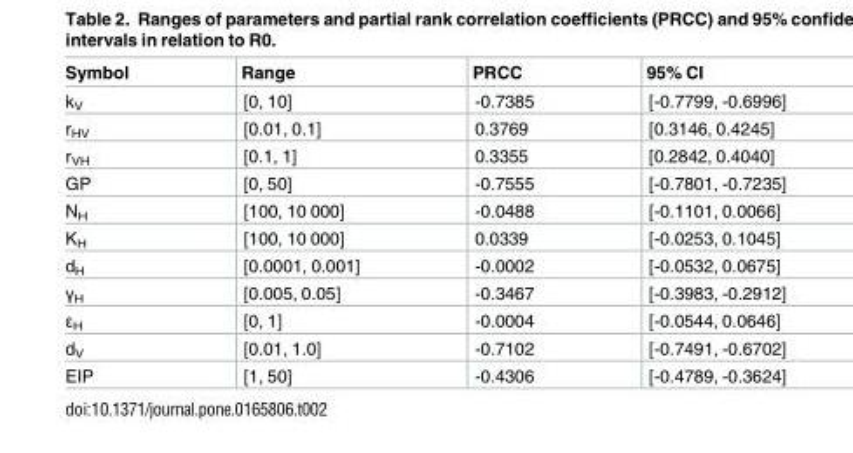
<table><thead><tr><td>Symbol</td><td>Range</td><td>PRCC</td><td>95% CI</td></tr></thead><tbody><tr><td>k<sub>V</sub></td><td>[0, 10]</td><td>-0.7385</td><td>[-0.7799, -0.6996]</td></tr><tr><td>r<sub>HV</sub></td><td>[0.01, 0.1]</td><td>0.3769</td><td>[0.3146, 0.4245]</td></tr><tr><td>r<sub>VH</sub></td><td>[0.1, 1]</td><td>0.3355</td><td>[0.2842, 0.4040]</td></tr><tr><td>GP</td><td>[0, 50]</td><td>-0.7555</td><td>[-0.7801, -0.7235]</td></tr><tr><td>N<sub>H</sub></td><td>[100, 10 000]</td><td>-0.0488</td><td>[-0.1101, 0.0066]</td></tr><tr><td>K<sub>H</sub></td><td>[100, 10 000]</td><td>0.0339</td><td>[-0.0253, 0.1045]</td></tr><tr><td>d<sub>H</sub></td><td>[0.0001, 0.001]</td><td>-0.0002</td><td>[-0.0532, 0.0675]</td></tr><tr><td>γ<sub>H</sub></td><td>[0.005, 0.05]</td><td>-0.3467</td><td>[-0.3983, -0.2912]</td></tr><tr><td>ε<sub>H</sub></td><td>[0, 1]</td><td>-0.0004</td><td>[-0.0544, 0.0646]</td></tr><tr><td>d<sub>V</sub></td><td>[0.01, 1.0]</td><td>-0.7102</td><td>[-0.7491, -0.6702]</td></tr><tr><td>EIP</td><td>[1, 50]</td><td>-0.4306</td><td>[-0.4789, -0.3624]</td></tr></tbody></table>